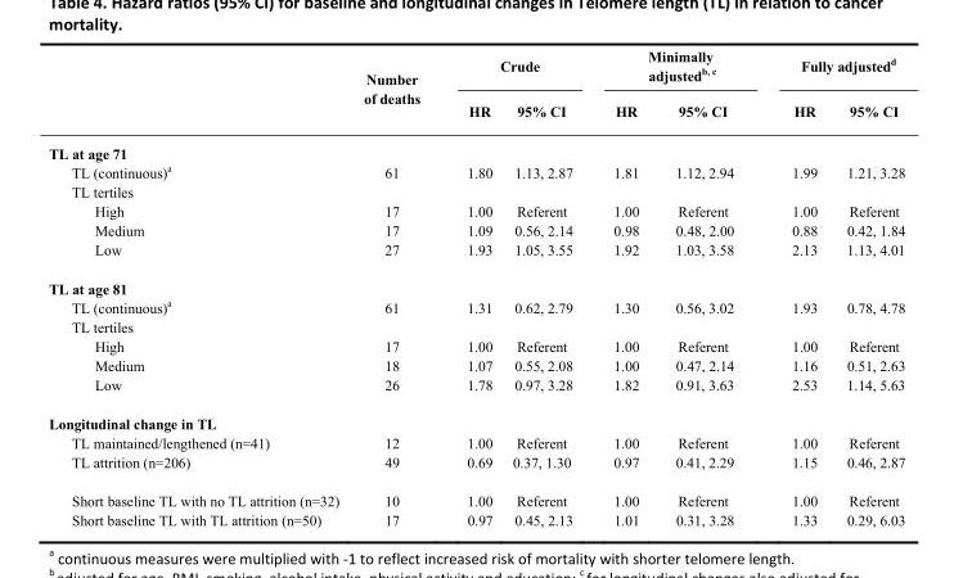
<table><thead><tr><td rowspan="2"></td><td rowspan="2">Number of deaths</td><td colspan="2">Crude</td><td colspan="2">Minimally adjusted<sup>b, c</sup></td><td colspan="2">Fully adjusted<sup>d</sup></td></tr><tr><td>HR</td><td>95% CI</td><td>HR</td><td>95% CI</td><td>HR</td><td>95% CI</td></tr></thead><tbody><tr><td colspan="8">TL at age 71</td></tr><tr><td>TL (continuous)<sup>a</sup></td><td>61</td><td>1.80</td><td>1.13, 2.87</td><td>1.81</td><td>1.12, 2.94</td><td>1.99</td><td>1.21, 3.28</td></tr><tr><td colspan="8">TL tertiles</td></tr><tr><td>High</td><td>17</td><td>1.00</td><td>Referent</td><td>1.00</td><td>Referent</td><td>1.00</td><td>Referent</td></tr><tr><td>Medium</td><td>17</td><td>1.09</td><td>0.56, 2.14</td><td>0.98</td><td>0.48, 2.00</td><td>0.88</td><td>0.42, 1.84</td></tr><tr><td>Low</td><td>27</td><td>1.93</td><td>1.05, 3.55</td><td>1.92</td><td>1.03, 3.58</td><td>2.13</td><td>1.13, 4.01</td></tr><tr><td colspan="8">TL at age 81</td></tr><tr><td>TL (continuous)<sup>a</sup></td><td>61</td><td>1.31</td><td>0.62, 2.79</td><td>1.30</td><td>0.56, 3.02</td><td>1.93</td><td>0.78, 4.78</td></tr><tr><td colspan="8">TL tertiles</td></tr><tr><td>High</td><td>17</td><td>1.00</td><td>Referent</td><td>1.00</td><td>Referent</td><td>1.00</td><td>Referent</td></tr><tr><td>Medium</td><td>18</td><td>1.07</td><td>0.55, 2.08</td><td>1.00</td><td>0.47, 2.14</td><td>1.16</td><td>0.51, 2.63</td></tr><tr><td>Low</td><td>26</td><td>1.78</td><td>0.97, 3.28</td><td>1.82</td><td>0.91, 3.63</td><td>2.53</td><td>1.14, 5.63</td></tr><tr><td colspan="8">Longitudinal change in TL</td></tr><tr><td>TL maintained/lengthened (n=41)</td><td>12</td><td>1.00</td><td>Referent</td><td>1.00</td><td>Referent</td><td>1.00</td><td>Referent</td></tr><tr><td>TL attrition (n=206)</td><td>49</td><td>0.69</td><td>0.37, 1.30</td><td>0.97</td><td>0.41, 2.29</td><td>1.15</td><td>0.46, 2.87</td></tr><tr><td>Short baseline TL with no TL attrition (n=32)</td><td>10</td><td>1.00</td><td>Referent</td><td>1.00</td><td>Referent</td><td>1.00</td><td>Referent</td></tr><tr><td>Short baseline TL with TL attrition (n=50)</td><td>17</td><td>0.97</td><td>0.45, 2.13</td><td>1.01</td><td>0.31, 3.28</td><td>1.33</td><td>0.29, 6.03</td></tr></tbody></table>